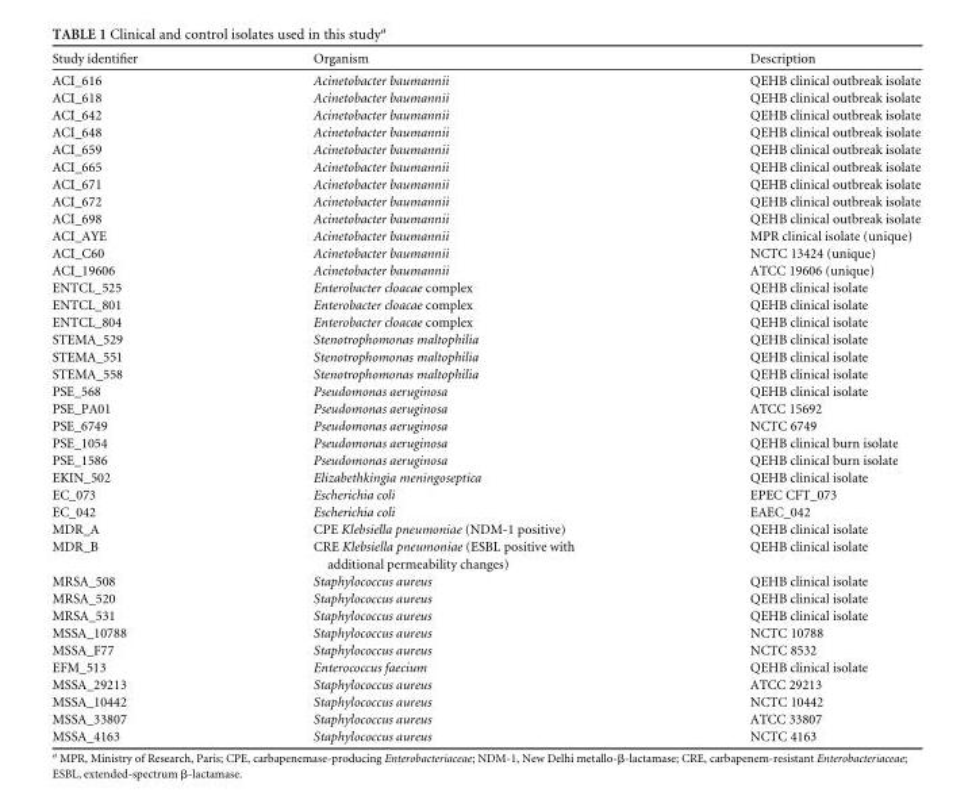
<table><thead><tr><td>Study identifier</td><td>Organism</td><td>Description</td></tr></thead><tbody><tr><td>ACI_616</td><td>Acinetobacter baumannii</td><td>QEHB clinical outbreak isolate</td></tr><tr><td>ACI_618</td><td>Acinetobacter baumannii</td><td>QEHB clinical outbreak isolate</td></tr><tr><td>ACI_642</td><td>Acinetobacter baumannii</td><td>QEHB clinical outbreak isolate</td></tr><tr><td>ACI_648</td><td>Acinetobacter baumannii</td><td>QEHB clinical outbreak isolate</td></tr><tr><td>ACI_659</td><td>Acinetobacter baumannii</td><td>QEHB clinical outbreak isolate</td></tr><tr><td>ACI_665</td><td>Acinetobacter baumannii</td><td>QEHB clinical outbreak isolate</td></tr><tr><td>ACI_671</td><td>Acinetobacter baumannii</td><td>QEHB clinical outbreak isolate</td></tr><tr><td>ACI_672</td><td>Acinetobacter baumannii</td><td>QEHB clinical outbreak isolate</td></tr><tr><td>ACI_698</td><td>Acinetobacter baumannii</td><td>QEHB clinical outbreak isolate</td></tr><tr><td>ACI_AYE</td><td>Acinetobacter baumannii</td><td>MPR clinical isolate (unique)</td></tr><tr><td>ACI_C60</td><td>Acinetobacter baumannii</td><td>NCTC 13424 (unique)</td></tr><tr><td>ACI_19606</td><td>Acinetobacter baumannii</td><td>ATCC 19606 (unique)</td></tr><tr><td>ENTCL_525</td><td>Enterobacter cloacae complex</td><td>QEHB clinical isolate</td></tr><tr><td>ENTCL_801</td><td>Enterobacter cloacae complex</td><td>QEHB clinical isolate</td></tr><tr><td>ENTCL_804</td><td>Enterobacter cloacae complex</td><td>QEHB clinical isolate</td></tr><tr><td>STEMA_529</td><td>Stenotrophomonas maltophilia</td><td>QEHB clinical isolate</td></tr><tr><td>STEMA_551</td><td>Stenotrophomonas maltophilia</td><td>QEHB clinical isolate</td></tr><tr><td>STEMA_558</td><td>Stenotrophomonas maltophilia</td><td>QEHB clinical isolate</td></tr><tr><td>PSE_568</td><td>Pseudomonas aeruginosa</td><td>QEHB clinical isolate</td></tr><tr><td>PSE_PA01</td><td>Pseudomonas aeruginosa</td><td>ATCC 15692</td></tr><tr><td>PSE_6749</td><td>Pseudomonas aeruginosa</td><td>NCTC 6749</td></tr><tr><td>PSE_1054</td><td>Pseudomonas aeruginosa</td><td>QEHB clinical burn isolate</td></tr><tr><td>PSE_1586</td><td>Pseudomonas aeruginosa</td><td>QEHB clinical burn isolate</td></tr><tr><td>EKIN_502</td><td>Elizabethkingia meningoseptica</td><td>QEHB clinical isolate</td></tr><tr><td>EC_073</td><td>Escherichia coli</td><td>EPEC CFT_073</td></tr><tr><td>EC_042</td><td>Escherichia coli</td><td>EAEC_042</td></tr><tr><td>MDR_A</td><td>CPE Klebsiella pneumoniae (NDM-1 positive)</td><td>QEHB clinical isolate</td></tr><tr><td>MDR_B</td><td>CRE Klebsiella pneumoniae (ESBL positive with additional permeability changes)</td><td>QEHB clinical isolate</td></tr><tr><td>MRSA_508</td><td>Staphylococcus aureus</td><td>QEHB clinical isolate</td></tr><tr><td>MRSA_520</td><td>Staphylococcus aureus</td><td>QEHB clinical isolate</td></tr><tr><td>MRSA_531</td><td>Staphylococcus aureus</td><td>QEHB clinical isolate</td></tr><tr><td>MSSA_10788</td><td>Staphylococcus aureus</td><td>NCTC 10788</td></tr><tr><td>MSSA_F77</td><td>Staphylococcus aureus</td><td>NCTC 8532</td></tr><tr><td>EFM_513</td><td>Enterococcus faecium</td><td>QEHB clinical isolate</td></tr><tr><td>MSSA_29213</td><td>Staphylococcus aureus</td><td>ATCC 29213</td></tr><tr><td>MSSA_10442</td><td>Staphylococcus aureus</td><td>NCTC 10442</td></tr><tr><td>MSSA_33807</td><td>Staphylococcus aureus</td><td>ATCC 33807</td></tr><tr><td>MSSA_4163</td><td>Staphylococcus aureus</td><td>NCTC 4163</td></tr></tbody></table>